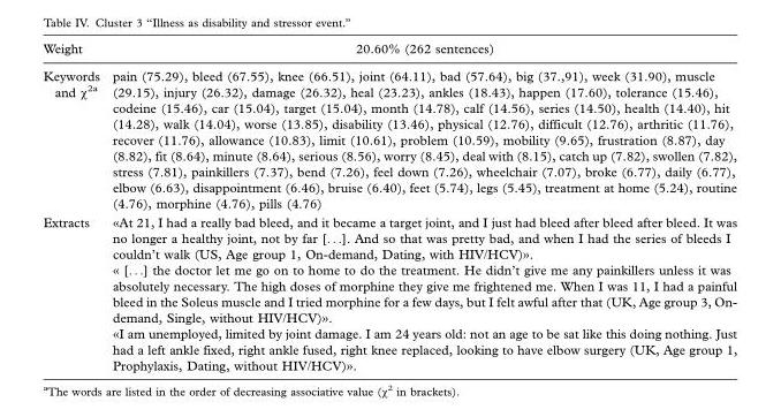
<table><thead><tr><td>Weight</td><td>20.60% (262 sentences)</td></tr></thead><tbody><tr><td>Keywords and χ<sup>2</sup>a</td><td>pain (75.29), bleed (67.55), knee (66.51), joint (64.11), bad (57.64), big (37.,91), week (31.90), muscle (29.15), injury (26.32), damage (26.32), heal (23.23), ankles (18.43), happen (17.60), tolerance (15.46), codeine (15.46), car (15.04), target (15.04), month (14.78), calf (14.56), series (14.50), health (14.40), hit (14.28), walk (14.04), worse (13.85), disability (13.46), physical (12.76), difficult (12.76), arthritic (11.76), recover (11.76), allowance (10.83), limit (10.61), problem (10.59), mobility (9.65), frustration (8.87), day (8.82), fit (8.64), minute (8.64), serious (8.56), worry (8.45), deal with (8.15), catch up (7.82), swollen (7.82), stress (7.81), painkillers (7.37), bend (7.26), feel down (7.26), wheelchair (7.07), broke (6.77), daily (6.77), elbow (6.63), disappointment (6.46), bruise (6.40), feet (5.74), legs (5.45), treatment at home (5.24), routine (4.76), morphine (4.76), pills (4.76)</td></tr><tr><td>Extracts</td><td>«At 21, I had a really bad bleed, and it became a target joint, and I just had bleed after bleed after bleed. It was no longer a healthy joint, not by far [. . .]. And so that was pretty bad, and when I had the series of bleeds I couldn’t walk (US, Age group 1, On-demand, Dating, with HIV/HCV)». « [. . .] the doctor let me go on to home to do the treatment. He didn’t give me any painkillers unless it was absolutely necessary. The high doses of morphine they give me frightened me. When I was 11, I had a painful bleed in the Soleus muscle and I tried morphine for a few days, but I felt awful after that (UK, Age group 3, On- demand, Single, without HIV/HCV)». «I am unemployed, limited by joint damage. I am 24 years old: not an age to be sat like this doing nothing. Just had a left ankle fixed, right ankle fused, right knee replaced, looking to have elbow surgery (UK, Age group 1, Prophylaxis, Dating, without HIV/HCV)».</td></tr></tbody></table>